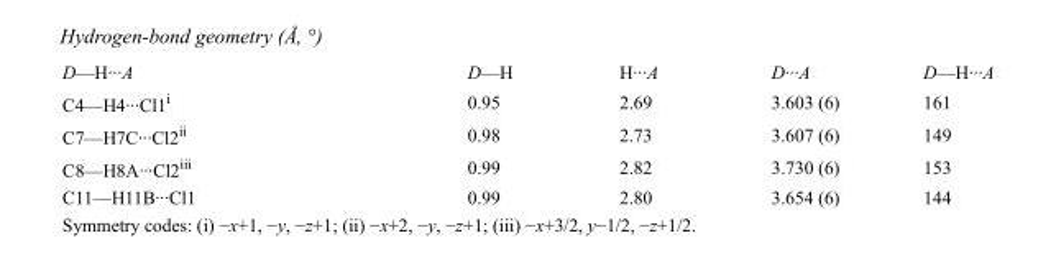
<table><tbody><tr><td>D—H···A</td><td>D—H</td><td>H···A</td><td>D···A</td><td>D—H···A</td></tr><tr><td>C4—H4···Cl1<sup>i</sup></td><td>0.95</td><td>2.69</td><td>3.603 (6)</td><td>161</td></tr><tr><td>C7—H7C···Cl2<sup>ii</sup></td><td>0.98</td><td>2.73</td><td>3.607 (6)</td><td>149</td></tr><tr><td>C8—H8A···Cl2<sup>iii</sup></td><td>0.99</td><td>2.82</td><td>3.730 (6)</td><td>153</td></tr><tr><td>C11—H11B···Cl1</td><td>0.99</td><td>2.80</td><td>3.654 (6)</td><td>144</td></tr></tbody></table>